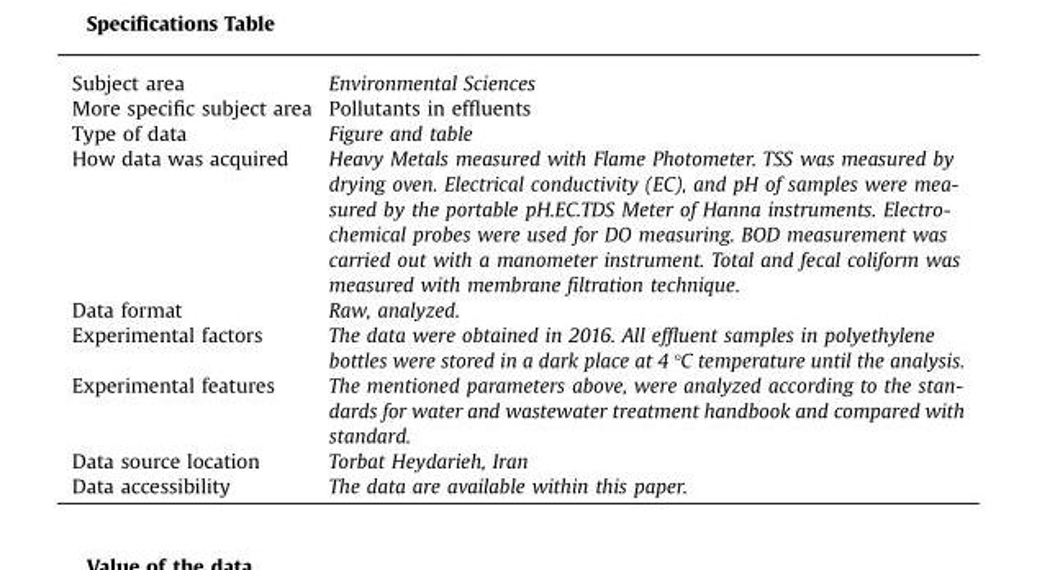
<table><tbody><tr><td>Subject area</td><td>Environmental Sciences</td></tr><tr><td>More specific subject area</td><td>Pollutants in effluents</td></tr><tr><td>Type of data</td><td>Figure and table</td></tr><tr><td>How data was acquired</td><td>Heavy Metals measured with Flame Photometer. TSS was measured by drying oven. Electrical conductivity (EC), and pH of samples were mea- sured by the portable pH.EC.TDS Meter of Hanna instruments. Electro- chemical probes were used for DO measuring. BOD measurement was carried out with a manometer instrument. Total and fecal coliform was measured with membrane filtration technique.</td></tr><tr><td>Data format</td><td>Raw, analyzed.</td></tr><tr><td>Experimental factors</td><td>The data were obtained in 2016. All effluent samples in polyethylene bottles were stored in a dark place at 4 °C temperature until the analysis.</td></tr><tr><td>Experimental features</td><td>The mentioned parameters above, were analyzed according to the stan- dards for water and wastewater treatment handbook and compared with standard.</td></tr><tr><td>Data source location</td><td>Torbat Heydarieh, Iran</td></tr><tr><td>Data accessibility</td><td>The data are available within this paper.</td></tr></tbody></table>